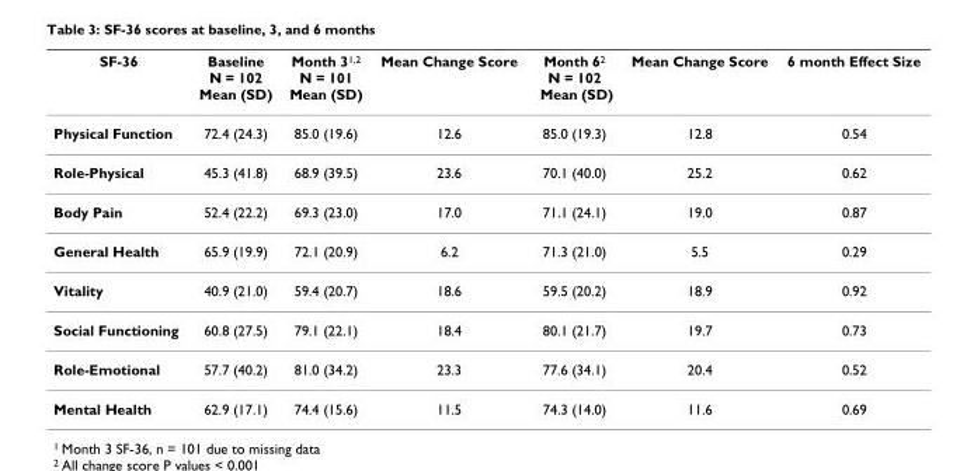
<table><thead><tr><td>SF-36</td><td>Baseline N = 102 Mean (SD)</td><td>Month 3<sup>1,2</sup> N = 101 Mean (SD)</td><td>Mean Change Score</td><td>Month 6<sup>2</sup> N = 102 Mean (SD)</td><td>Mean Change Score</td><td>6 month Effect Size</td></tr></thead><tbody><tr><td>Physical Function</td><td>72.4 (24.3)</td><td>85.0 (19.6)</td><td>12.6</td><td>85.0 (19.3)</td><td>12.8</td><td>0.54</td></tr><tr><td>Role-Physical</td><td>45.3 (41.8)</td><td>68.9 (39.5)</td><td>23.6</td><td>70.1 (40.0)</td><td>25.2</td><td>0.62</td></tr><tr><td>Body Pain</td><td>52.4 (22.2)</td><td>69.3 (23.0)</td><td>17.0</td><td>71.1 (24.1)</td><td>19.0</td><td>0.87</td></tr><tr><td>General Health</td><td>65.9 (19.9)</td><td>72.1 (20.9)</td><td>6.2</td><td>71.3 (21.0)</td><td>5.5</td><td>0.29</td></tr><tr><td>Vitality</td><td>40.9 (21.0)</td><td>59.4 (20.7)</td><td>18.6</td><td>59.5 (20.2)</td><td>18.9</td><td>0.92</td></tr><tr><td>Social Functioning</td><td>60.8 (27.5)</td><td>79.1 (22.1)</td><td>18.4</td><td>80.1 (21.7)</td><td>19.7</td><td>0.73</td></tr><tr><td>Role-Emotional</td><td>57.7 (40.2)</td><td>81.0 (34.2)</td><td>23.3</td><td>77.6 (34.1)</td><td>20.4</td><td>0.52</td></tr><tr><td>Mental Health</td><td>62.9 (17.1)</td><td>74.4 (15.6)</td><td>11.5</td><td>74.3 (14.0)</td><td>11.6</td><td>0.69</td></tr></tbody></table>